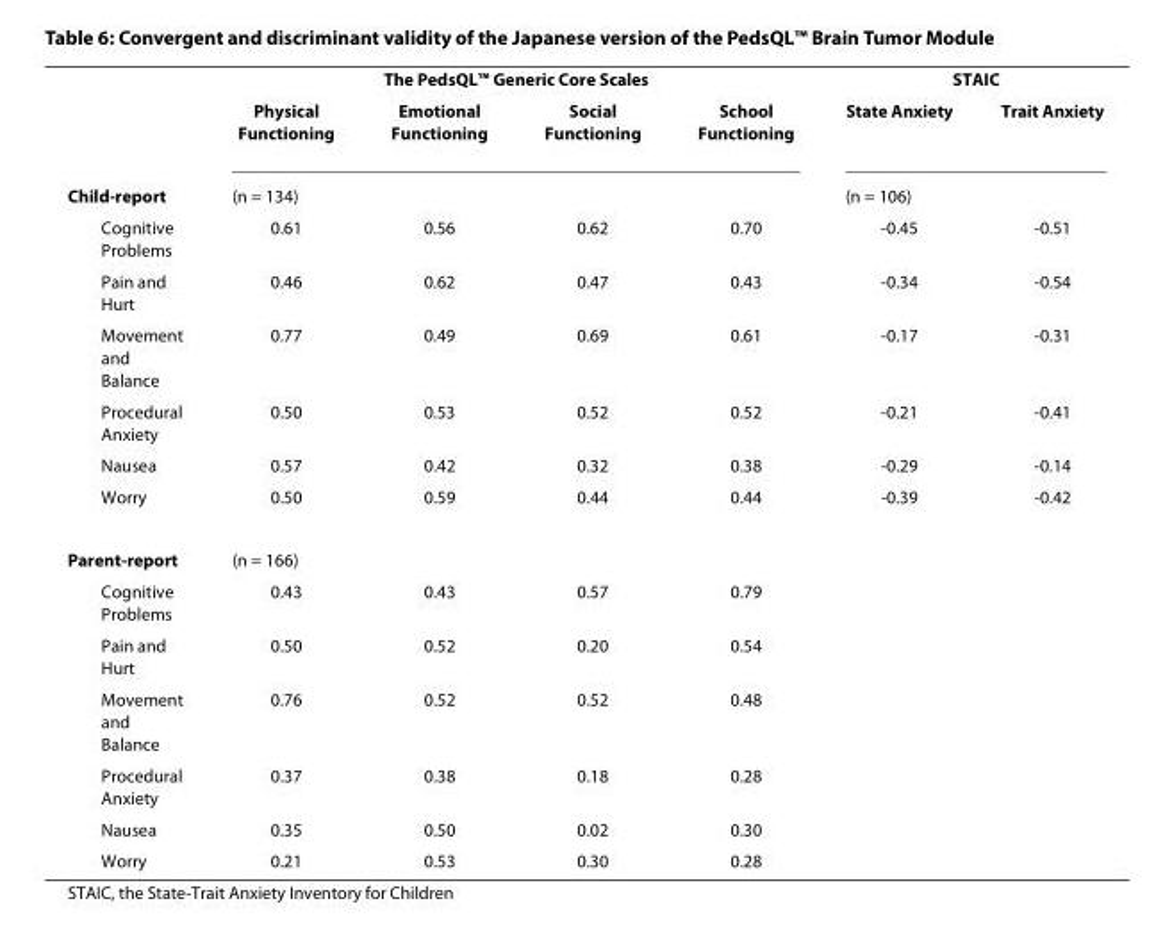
<table><thead><tr><td rowspan="2"></td><td colspan="4">The PedsQL™ Generic Core Scales</td><td colspan="2">STAIC</td></tr><tr><td>Physical Functioning</td><td>Emotional Functioning</td><td>Social Functioning</td><td>School Functioning</td><td>State Anxiety</td><td>Trait Anxiety</td></tr></thead><tbody><tr><td>Child-report</td><td>(n = 134)</td><td></td><td></td><td></td><td>(n = 106)</td><td></td></tr><tr><td>Cognitive Problems</td><td>0.61</td><td>0.56</td><td>0.62</td><td>0.70</td><td>-0.45</td><td>-0.51</td></tr><tr><td>Pain and Hurt</td><td>0.46</td><td>0.62</td><td>0.47</td><td>0.43</td><td>-0.34</td><td>-0.54</td></tr><tr><td>Movement and Balance</td><td>0.77</td><td>0.49</td><td>0.69</td><td>0.61</td><td>-0.17</td><td>-0.31</td></tr><tr><td>Procedural Anxiety</td><td>0.50</td><td>0.53</td><td>0.52</td><td>0.52</td><td>-0.21</td><td>-0.41</td></tr><tr><td>Nausea</td><td>0.57</td><td>0.42</td><td>0.32</td><td>0.38</td><td>-0.29</td><td>-0.14</td></tr><tr><td>Worry</td><td>0.50</td><td>0.59</td><td>0.44</td><td>0.44</td><td>-0.39</td><td>-0.42</td></tr><tr><td>Parent-report</td><td>(n = 166)</td><td></td><td></td><td></td><td></td><td></td></tr><tr><td>Cognitive Problems</td><td>0.43</td><td>0.43</td><td>0.57</td><td>0.79</td><td></td><td></td></tr><tr><td>Pain and Hurt</td><td>0.50</td><td>0.52</td><td>0.20</td><td>0.54</td><td></td><td></td></tr><tr><td>Movement and Balance</td><td>0.76</td><td>0.52</td><td>0.52</td><td>0.48</td><td></td><td></td></tr><tr><td>Procedural Anxiety</td><td>0.37</td><td>0.38</td><td>0.18</td><td>0.28</td><td></td><td></td></tr><tr><td>Nausea</td><td>0.35</td><td>0.50</td><td>0.02</td><td>0.30</td><td></td><td></td></tr><tr><td>Worry</td><td>0.21</td><td>0.53</td><td>0.30</td><td>0.28</td><td></td><td></td></tr></tbody></table>